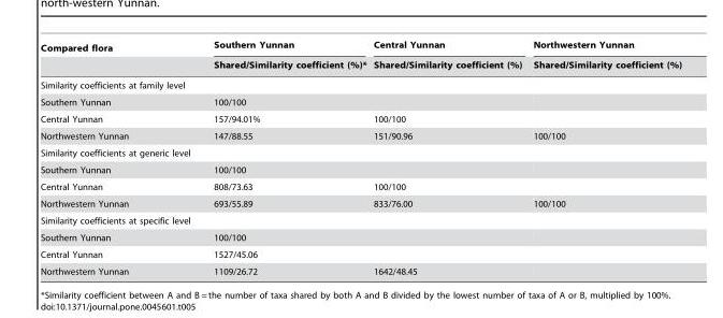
<table><thead><tr><td rowspan="2">Compared flora</td><td rowspan="2">Southern Yunnan Shared/Similarity coefficient (%)*</td><td rowspan="2">Central Yunnan Shared/Similarity coefficient (%)</td><td rowspan="2">Northwestern Yunnan Shared/Similarity coefficient (%)</td></tr><tr></tr></thead><tbody><tr><td colspan="4">Similarity coefficients at family level</td></tr><tr><td>Southern Yunnan</td><td>100/100</td><td></td><td></td></tr><tr><td>Central Yunnan</td><td>157/94.01%</td><td>100/100</td><td></td></tr><tr><td>Northwestern Yunnan</td><td>147/88.55</td><td>151/90.96</td><td>100/100</td></tr><tr><td colspan="4">Similarity coefficients at generic level</td></tr><tr><td>Southern Yunnan</td><td>100/100</td><td></td><td></td></tr><tr><td>Central Yunnan</td><td>808/73.63</td><td>100/100</td><td></td></tr><tr><td>Northwestern Yunnan</td><td>693/55.89</td><td>833/76.00</td><td>100/100</td></tr><tr><td colspan="4">Similarity coefficients at specific level</td></tr><tr><td>Southern Yunnan</td><td>100/100</td><td></td><td></td></tr><tr><td>Central Yunnan</td><td>1527/45.06</td><td></td><td></td></tr><tr><td>Northwestern Yunnan</td><td>1109/26.72</td><td>1642/48.45</td><td></td></tr></tbody></table>